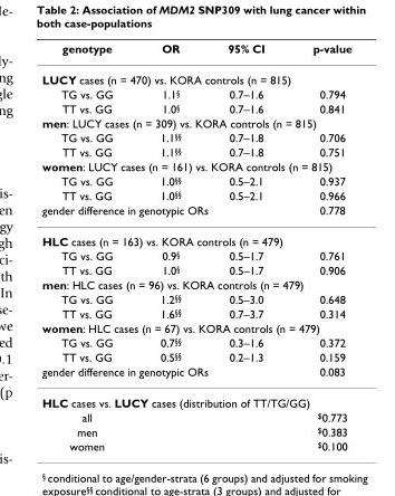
<table><thead><tr><td>genotype</td><td>OR</td><td>95% CI</td><td>p-value</td></tr></thead><tbody><tr><td colspan="4">LUCY cases (n = 470) vs. KORA controls (n = 815)</td></tr><tr><td>TG vs. GG</td><td>1.1<sup>§</sup></td><td>0.7–1.6</td><td>0.794</td></tr><tr><td>TT vs. GG</td><td>1.0<sup>§</sup></td><td>0.7–1.6</td><td>0.841</td></tr><tr><td colspan="4">men: LUCY cases (n = 309) vs. KORA controls (n = 815)</td></tr><tr><td>TG vs. GG</td><td>1.1<sup>§§</sup></td><td>0.7–1.8</td><td>0.706</td></tr><tr><td>TT vs. GG</td><td>1.1<sup>§§</sup></td><td>0.7–1.8</td><td>0.751</td></tr><tr><td colspan="4">women: LUCY cases (n = 161) vs. KORA controls (n = 815)</td></tr><tr><td>TG vs. GG</td><td>1.0<sup>§§</sup></td><td>0.5–2.1</td><td>0.937</td></tr><tr><td>TT vs. GG</td><td>1.0<sup>§§</sup></td><td>0.5–2.1</td><td>0.966</td></tr><tr><td colspan="3">gender difference in genotypic ORs</td><td>0.778</td></tr><tr><td colspan="4">HLC cases (n = 163) vs. KORA controls (n = 479)</td></tr><tr><td>TG vs. GG</td><td>0.9<sup>§</sup></td><td>0.5–1.7</td><td>0.761</td></tr><tr><td>TT vs. GG</td><td>1.0<sup>§</sup></td><td>0.5–1.7</td><td>0.906</td></tr><tr><td colspan="4">men: HLC cases (n = 96) vs. KORA controls (n = 479)</td></tr><tr><td>TG vs. GG</td><td>1.2<sup>§§</sup></td><td>0.5–3.0</td><td>0.648</td></tr><tr><td>TT vs. GG</td><td>1.6<sup>§§</sup></td><td>0.7–3.7</td><td>0.314</td></tr><tr><td colspan="4">women: HLC cases (n = 67) vs. KORA controls (n = 479)</td></tr><tr><td>TG vs. GG</td><td>0.7<sup>§§</sup></td><td>0.3–1.6</td><td>0.372</td></tr><tr><td>TT vs. GG</td><td>0.5<sup>§§</sup></td><td>0.2–1.3</td><td>0.159</td></tr><tr><td colspan="3">gender difference in genotypic ORs</td><td>0.083</td></tr><tr><td colspan="4">HLC cases vs. LUCY cases (distribution of TT/TG/GG)</td></tr><tr><td>all</td><td></td><td></td><td><sup>$</sup>0.773</td></tr><tr><td>men</td><td></td><td></td><td><sup>$</sup>0.383</td></tr><tr><td>women</td><td></td><td></td><td><sup>$</sup>0.100</td></tr></tbody></table>